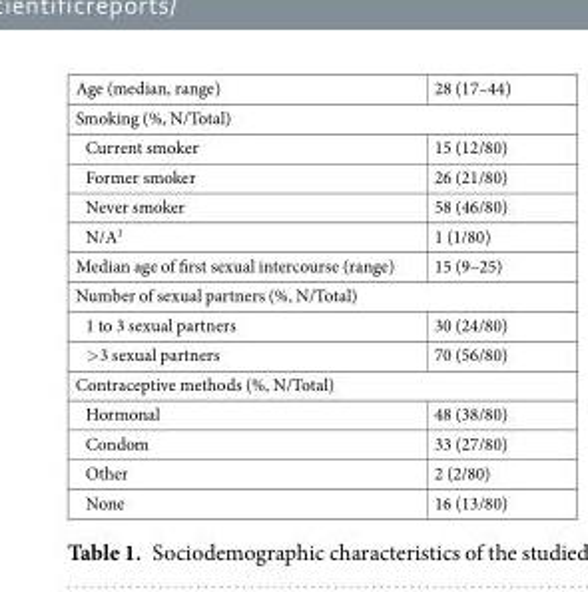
<table><thead><tr><td>Age (median, range)</td><td>28 (17–44)</td></tr></thead><tbody><tr><td colspan="2">Smoking (%, N/Total)</td></tr><tr><td>Current smoker</td><td>15 (12/80)</td></tr><tr><td>Former smoker</td><td>26 (21/80)</td></tr><tr><td>Never smoker</td><td>58 (46/80)</td></tr><tr><td>N/A<sup>1</sup></td><td>1 (1/80)</td></tr><tr><td>Median age of first sexual intercourse (range)</td><td>15 (9–25)</td></tr><tr><td colspan="2">Number of sexual partners (%, N/Total)</td></tr><tr><td>1 to 3 sexual partners</td><td>30 (24/80)</td></tr><tr><td>&gt;3 sexual partners</td><td>70 (56/80)</td></tr><tr><td colspan="2">Contraceptive methods (%, N/Total)</td></tr><tr><td>Hormonal</td><td>48 (38/80)</td></tr><tr><td>Condom</td><td>33 (27/80)</td></tr><tr><td>Other</td><td>2 (2/80)</td></tr><tr><td>None</td><td>16 (13/80)</td></tr></tbody></table>